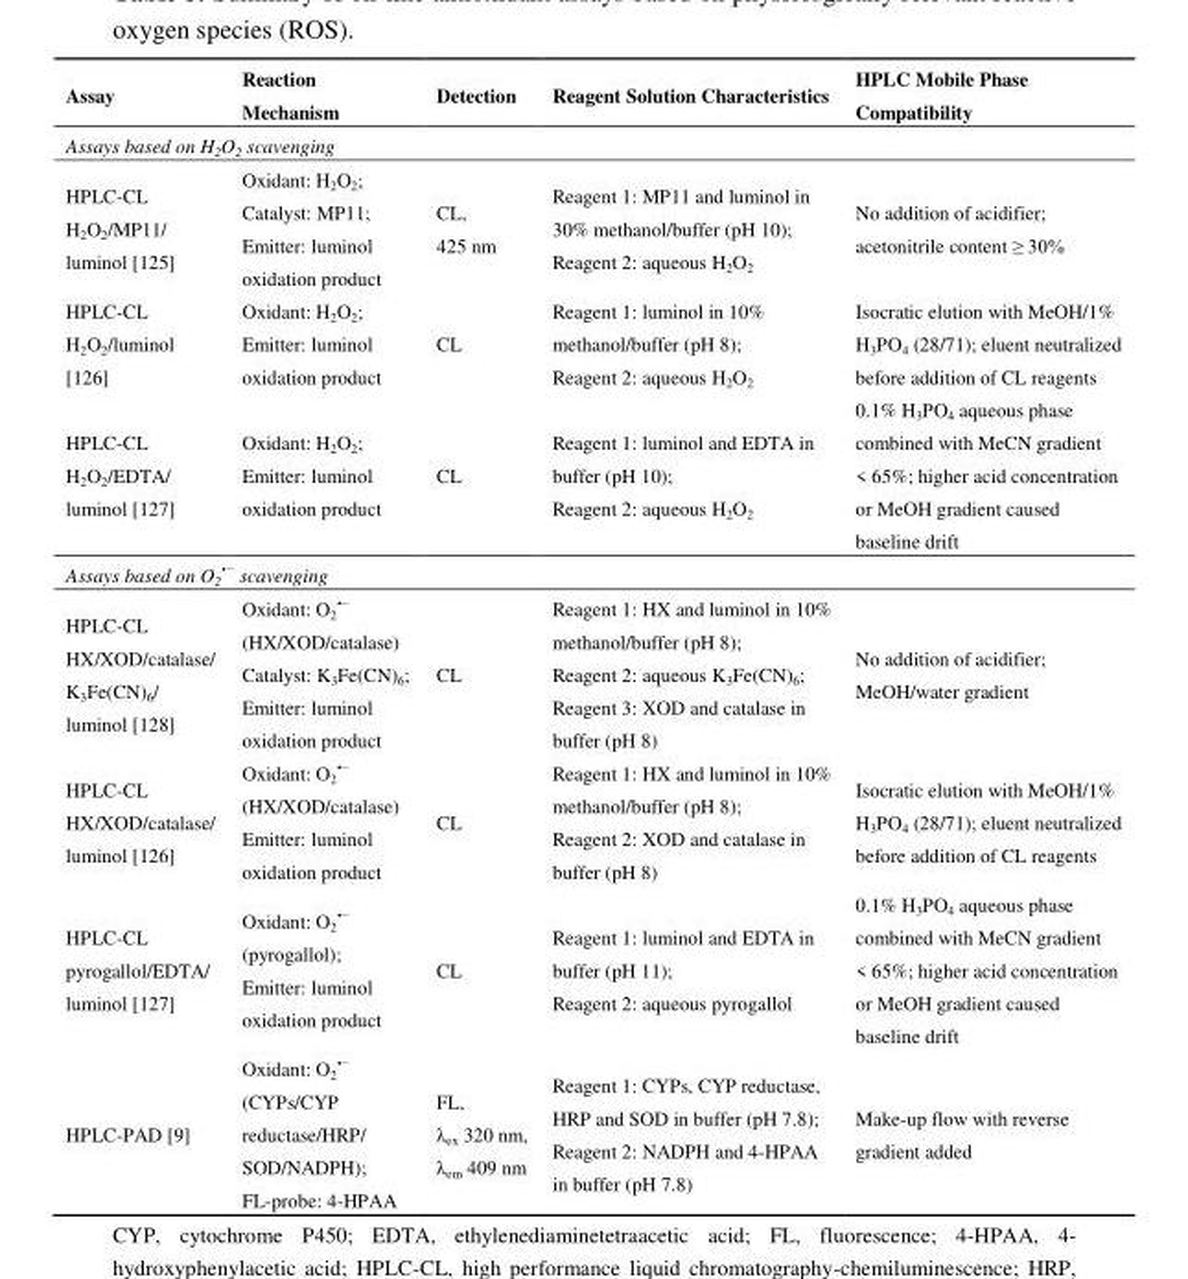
<table><thead><tr><td>Assay</td><td>Reaction Mechanism</td><td>Detection</td><td>Reagent Solution Characteristics</td><td>HPLC Mobile Phase Compatibility</td></tr></thead><tbody><tr><td colspan="5">Assays based on H<sub>2</sub>O<sub>2</sub> scavenging</td></tr><tr><td>HPLC-CL H<sub>2</sub>O<sub>2</sub>/MP11/ luminol [125]</td><td>Oxidant: H<sub>2</sub>O<sub>2</sub>; Catalyst: MP11; Emitter: luminol oxidation product</td><td>CL, 425 nm</td><td>Reagent 1: MP11 and luminol in 30% methanol/buffer (pH 10); Reagent 2: aqueous H<sub>2</sub>O<sub>2</sub></td><td>No addition of acidifier; acetonitrile content ≥ 30%</td></tr><tr><td>HPLC-CL H<sub>2</sub>O<sub>2</sub>/luminol [126]</td><td>Oxidant: H<sub>2</sub>O<sub>2</sub>; Emitter: luminol oxidation product</td><td>CL</td><td>Reagent 1: luminol in 10% methanol/buffer (pH 8); Reagent 2: aqueous H<sub>2</sub>O<sub>2</sub></td><td>Isocratic elution with MeOH/1% H<sub>3</sub>PO<sub>4</sub> (28/71); eluent neutralized before addition of CL reagents</td></tr><tr><td>HPLC-CL H<sub>2</sub>O<sub>2</sub>/EDTA/ luminol [127]</td><td>Oxidant: H<sub>2</sub>O<sub>2</sub>; Emitter: luminol oxidation product</td><td>CL</td><td>Reagent 1: luminol and EDTA in buffer (pH 10); Reagent 2: aqueous H<sub>2</sub>O<sub>2</sub></td><td>0.1% H<sub>3</sub>PO<sub>4</sub> aqueous phase combined with MeCN gradient &lt; 65%; higher acid concentration or MeOH gradient caused baseline drift</td></tr><tr><td colspan="5">Assays based on O<sub>2</sub> <sup>•−</sup> scavenging</td></tr><tr><td>HPLC-CL HX/XOD/catalase/ K<sub>3</sub>Fe(CN)<sub>6</sub>/ luminol [128]</td><td>Oxidant: O<sub>2</sub> <sup>•−</sup> (HX/XOD/catalase) Catalyst: K<sub>3</sub>Fe(CN)<sub>6</sub>; Emitter: luminol oxidation product</td><td>CL</td><td>Reagent 1: HX and luminol in 10% methanol/buffer (pH 8); Reagent 2: aqueous K<sub>3</sub>Fe(CN)<sub>6</sub>; Reagent 3: XOD and catalase in buffer (pH 8)</td><td>No addition of acidifier; MeOH/water gradient</td></tr><tr><td>HPLC-CL HX/XOD/catalase/ luminol [126]</td><td>Oxidant: O<sub>2</sub> <sup>•−</sup> (HX/XOD/catalase) Emitter: luminol oxidation product</td><td>CL</td><td>Reagent 1: HX and luminol in 10% methanol/buffer (pH 8); Reagent 2: XOD and catalase in buffer (pH 8)</td><td>Isocratic elution with MeOH/1% H<sub>3</sub>PO<sub>4</sub> (28/71); eluent neutralized before addition of CL reagents</td></tr><tr><td>HPLC-CL pyrogallol/EDTA/ luminol [127]</td><td>Oxidant: O<sub>2</sub> <sup>•−</sup> (pyrogallol); Emitter: luminol oxidation product</td><td>CL</td><td>Reagent 1: luminol and EDTA in buffer (pH 11); Reagent 2: aqueous pyrogallol</td><td>0.1% H<sub>3</sub>PO<sub>4</sub> aqueous phase combined with MeCN gradient &lt; 65%; higher acid concentration or MeOH gradient caused baseline drift</td></tr><tr><td>HPLC-PAD [9]</td><td>Oxidant: O<sub>2</sub> <sup>•−</sup> (CYPs/CYP reductase/HRP/ SOD/NADPH); FL-probe: 4-HPAA</td><td>FL, λ<sub>ex</sub> 320 nm, λ<sub>em</sub> 409 nm</td><td>Reagent 1: CYPs, CYP reductase, HRP and SOD in buffer (pH 7.8); Reagent 2: NADPH and 4-HPAA in buffer (pH 7.8)</td><td>Make-up flow with reverse gradient added</td></tr></tbody></table>